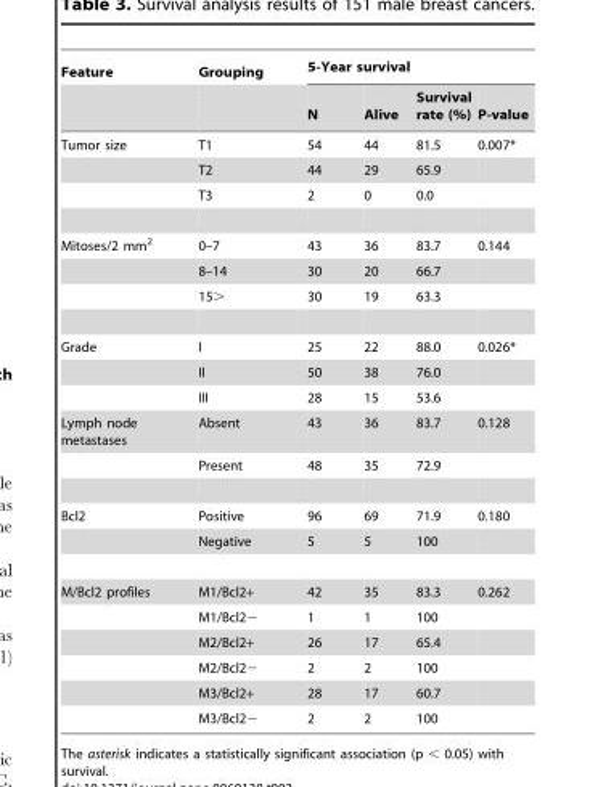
<table><thead><tr><td rowspan="2">Feature</td><td rowspan="2">Grouping</td><td colspan="4">5-Year survival</td></tr><tr><td>N</td><td>Alive</td><td>Survival rate (%)</td><td>P-value</td></tr></thead><tbody><tr><td rowspan="3">Tumor size</td><td>T1</td><td>54</td><td>44</td><td>81.5</td><td>0.007*</td></tr><tr><td>T2</td><td>44</td><td>29</td><td>65.9</td><td></td></tr><tr><td>T3</td><td>2</td><td>0</td><td>0.0</td><td></td></tr><tr><td rowspan="3">Mitoses/2 mm<sup>2</sup></td><td>0–7</td><td>43</td><td>36</td><td>83.7</td><td>0.144</td></tr><tr><td>8–14</td><td>30</td><td>20</td><td>66.7</td><td></td></tr><tr><td>15&gt;</td><td>30</td><td>19</td><td>63.3</td><td></td></tr><tr><td rowspan="3">Grade</td><td>I</td><td>25</td><td>22</td><td>88.0</td><td>0.026*</td></tr><tr><td>II</td><td>50</td><td>38</td><td>76.0</td><td></td></tr><tr><td>III</td><td>28</td><td>15</td><td>53.6</td><td></td></tr><tr><td rowspan="2">Lymph node metastases</td><td>Absent</td><td>43</td><td>36</td><td>83.7</td><td>0.128</td></tr><tr><td>Present</td><td>48</td><td>35</td><td>72.9</td><td></td></tr><tr><td rowspan="2">Bcl2</td><td>Positive</td><td>96</td><td>69</td><td>71.9</td><td>0.180</td></tr><tr><td>Negative</td><td>5</td><td>5</td><td>100</td><td></td></tr><tr><td rowspan="6">M/Bcl2 profiles</td><td>M1/Bcl2+</td><td>42</td><td>35</td><td>83.3</td><td>0.262</td></tr><tr><td>M1/Bcl2−</td><td>1</td><td>1</td><td>100</td><td></td></tr><tr><td>M2/Bcl2+</td><td>26</td><td>17</td><td>65.4</td><td></td></tr><tr><td>M2/Bcl2−</td><td>2</td><td>2</td><td>100</td><td></td></tr><tr><td>M3/Bcl2+</td><td>28</td><td>17</td><td>60.7</td><td></td></tr><tr><td>M3/Bcl2−</td><td>2</td><td>2</td><td>100</td><td></td></tr></tbody></table>